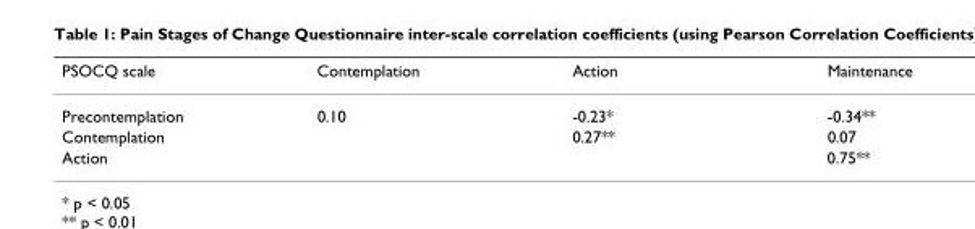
<table><thead><tr><td>PSOCQ scale</td><td>Contemplation</td><td>Action</td><td>Maintenance</td></tr></thead><tbody><tr><td>Precontemplation</td><td>0.10</td><td>-0.23*</td><td>-0.34**</td></tr><tr><td>Contemplation</td><td></td><td>0.27**</td><td>0.07</td></tr><tr><td>Action</td><td></td><td></td><td>0.75**</td></tr></tbody></table>